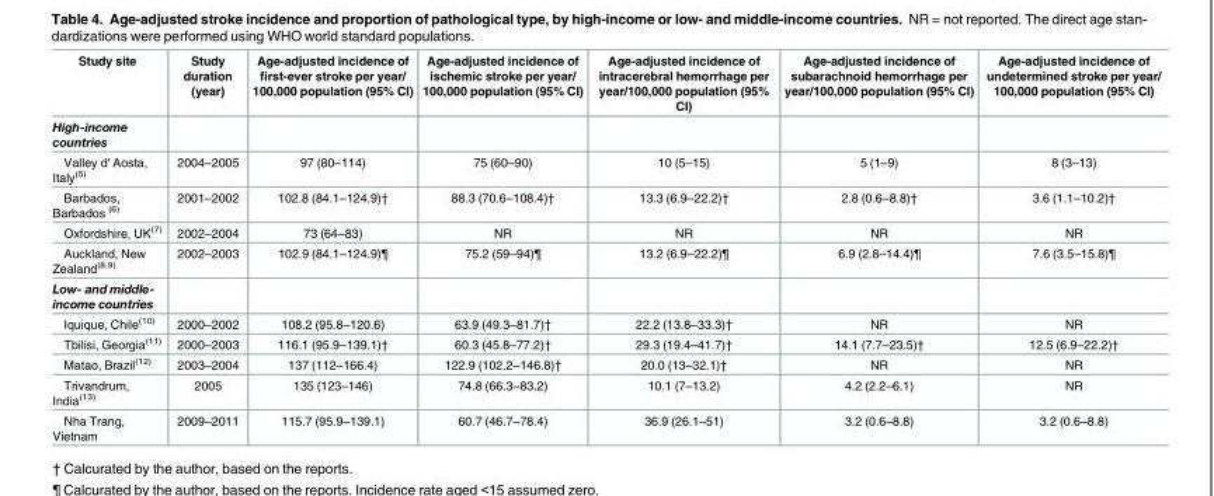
<table><thead><tr><td>Study site</td><td>Study duration (year)</td><td>Age-adjusted incidence of first-ever stroke per year/ 100,000 population (95% CI)</td><td>Age-adjusted incidence of ischemic stroke per year/ 100,000 population (95% CI)</td><td>Age-adjusted incidence of intracerebral hemorrhage per year/100,000 population (95% CI)</td><td>Age-adjusted incidence of subarachnoid hemorrhage per year/100,000 population (95% CI)</td><td>Age-adjusted incidence of undetermined stroke per year/ 100,000 population (95% CI)</td></tr></thead><tbody><tr><td colspan="7">High-income countries</td></tr><tr><td>Valley d&#x27; Aosta, Italy<sup>(5)</sup></td><td>2004–2005</td><td>97 (80–114)</td><td>75 (60–90)</td><td>10 (5–15)</td><td>5 (1–9)</td><td>8 (3–13)</td></tr><tr><td>Barbados, Barbados <sup>(6)</sup></td><td>2001–2002</td><td>102.8 (84.1–124.9)†</td><td>88.3 (70.6–108.4)†</td><td>13.3 (6.9–22.2)†</td><td>2.8 (0.6–8.8)†</td><td>3.6 (1.1–10.2)†</td></tr><tr><td>Oxfordshire, UK<sup>(7)</sup></td><td>2002–2004</td><td>73 (64–83)</td><td>NR</td><td>NR</td><td>NR</td><td>NR</td></tr><tr><td>Auckland, New Zealand<sup>(8,9)</sup></td><td>2002–2003</td><td>102.9 (84.1–124.9)¶</td><td>75.2 (59–94)¶</td><td>13.2 (6.9–22.2)¶</td><td>6.9 (2.8–14.4)¶</td><td>7.6 (3.5–15.8)¶</td></tr><tr><td colspan="7">Low- and middle- income countries</td></tr><tr><td>Iquique, Chile<sup>(10)</sup></td><td>2000–2002</td><td>108.2 (95.8–120.6)</td><td>63.9 (49.3–81.7)†</td><td>22.2 (13.8–33.3)†</td><td>NR</td><td>NR</td></tr><tr><td>Tbilisi, Georgia<sup>(11)</sup></td><td>2000–2003</td><td>116.1 (95.9–139.1)†</td><td>60.3 (45.8–77.2)†</td><td>29.3 (19.4–41.7)†</td><td>14.1 (7.7–23.5)†</td><td>12.5 (6.9–22.2)†</td></tr><tr><td>Matao, Brazil<sup>(12)</sup></td><td>2003–2004</td><td>137 (112–166.4)</td><td>122.9 (102.2–146.8)†</td><td>20.0 (13–32.1)†</td><td>NR</td><td>NR</td></tr><tr><td>Trivandrum, India<sup>(13)</sup></td><td>2005</td><td>135 (123–146)</td><td>74.8 (66.3–83.2)</td><td>10.1 (7–13.2)</td><td>4.2 (2.2–6.1)</td><td>NR</td></tr><tr><td>Nha Trang, Vietnam</td><td>2009–2011</td><td>115.7 (95.9–139.1)</td><td>60.7 (46.7–78.4)</td><td>36.9 (26.1–51)</td><td>3.2 (0.6–8.8)</td><td>3.2 (0.6–8.8)</td></tr></tbody></table>